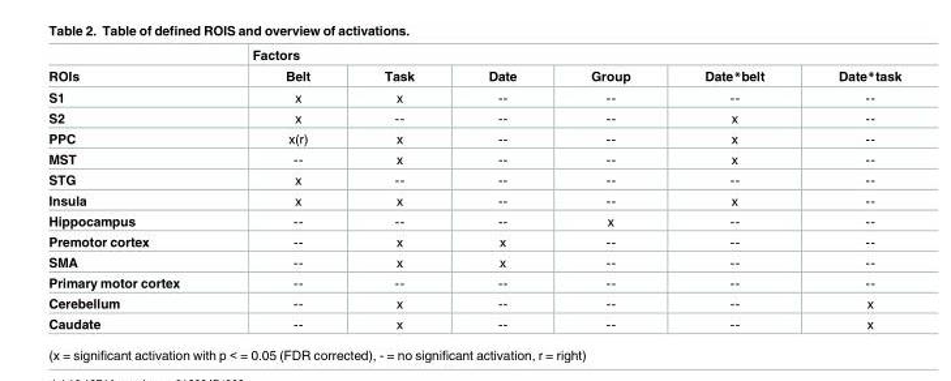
<table><thead><tr><td rowspan="2">ROIs</td><td colspan="6">Factors</td></tr><tr><td>Belt</td><td>Task</td><td>Date</td><td>Group</td><td>Date*belt</td><td>Date*task</td></tr></thead><tbody><tr><td>S1</td><td>x</td><td>x</td><td>--</td><td>--</td><td>--</td><td>--</td></tr><tr><td>S2</td><td>x</td><td>--</td><td>--</td><td>--</td><td>x</td><td>--</td></tr><tr><td>PPC</td><td>x(r)</td><td>x</td><td>--</td><td>--</td><td>x</td><td>--</td></tr><tr><td>MST</td><td>--</td><td>x</td><td>--</td><td>--</td><td>x</td><td>--</td></tr><tr><td>STG</td><td>x</td><td>--</td><td>--</td><td>--</td><td>--</td><td>--</td></tr><tr><td>Insula</td><td>x</td><td>x</td><td>--</td><td>--</td><td>x</td><td>--</td></tr><tr><td>Hippocampus</td><td>--</td><td>--</td><td>--</td><td>x</td><td>--</td><td>--</td></tr><tr><td>Premotor cortex</td><td>--</td><td>x</td><td>x</td><td>--</td><td>--</td><td>--</td></tr><tr><td>SMA</td><td>--</td><td>x</td><td>x</td><td>--</td><td>--</td><td>--</td></tr><tr><td>Primary motor cortex</td><td>--</td><td>--</td><td>--</td><td>--</td><td>--</td><td>--</td></tr><tr><td>Cerebellum</td><td>--</td><td>x</td><td>--</td><td>--</td><td>--</td><td>x</td></tr><tr><td>Caudate</td><td>--</td><td>x</td><td>--</td><td>--</td><td>--</td><td>x</td></tr></tbody></table>